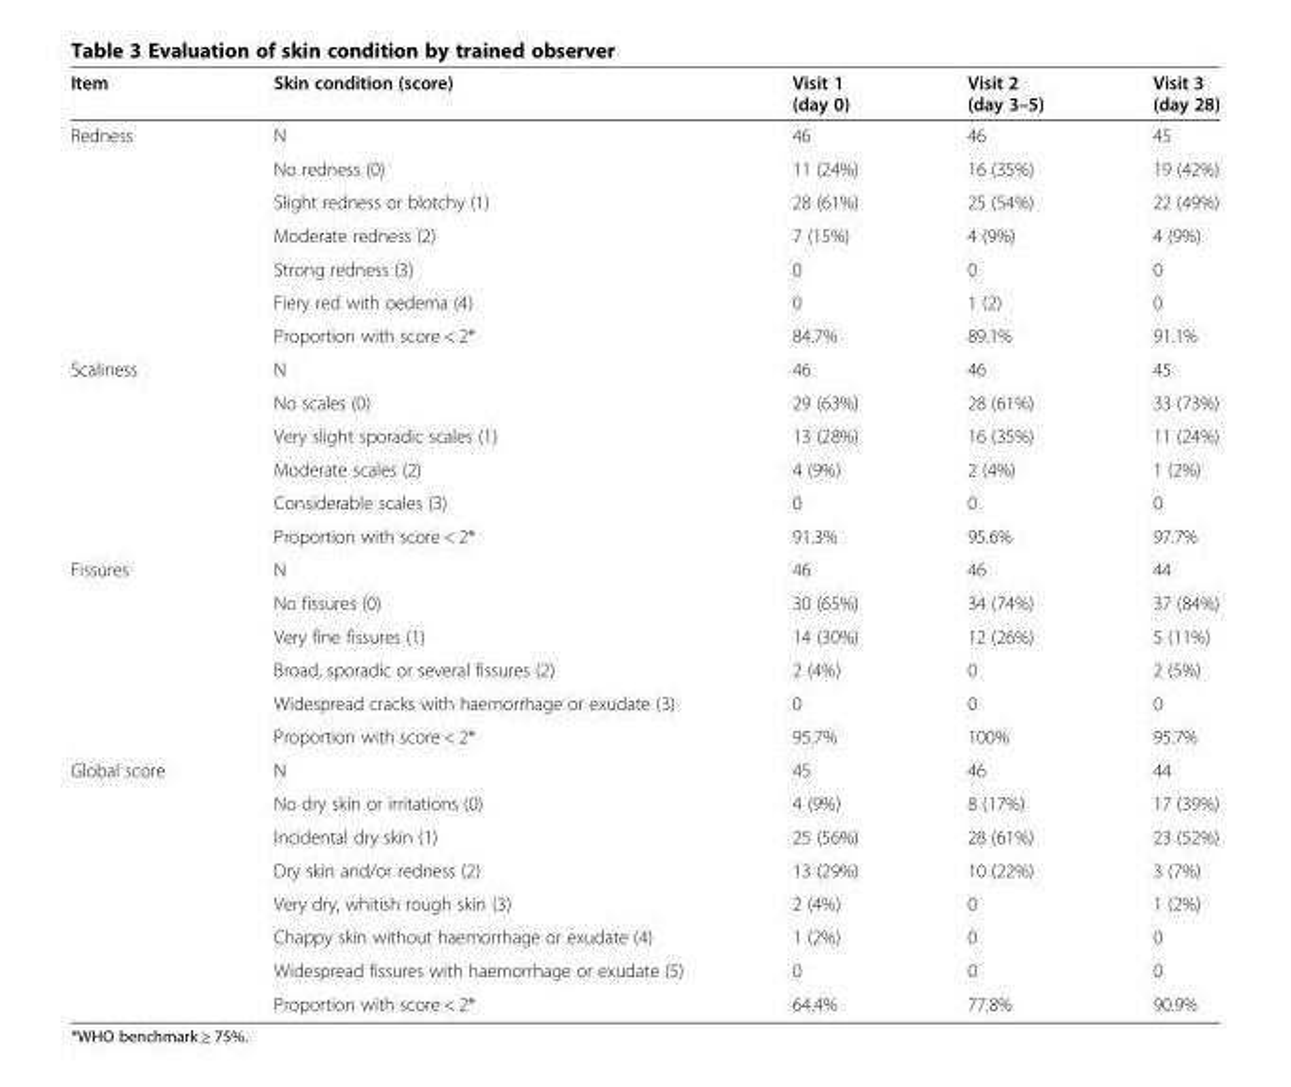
<table><thead><tr><td>Item</td><td>Skin condition (score)</td><td>Visit 1 (day 0)</td><td>Visit 2 (day 3–5)</td><td>Visit 3 (day 28)</td></tr></thead><tbody><tr><td rowspan="7">Redness</td><td>N</td><td>46</td><td>46</td><td>45</td></tr><tr><td>No redness (0)</td><td>11 (24%)</td><td>16 (35%)</td><td>19 (42%)</td></tr><tr><td>Slight redness or blotchy (1)</td><td>28 (61%)</td><td>25 (54%)</td><td>22 (49%)</td></tr><tr><td>Moderate redness (2)</td><td>7 (15%)</td><td>4 (9%)</td><td>4 (9%)</td></tr><tr><td>Strong redness (3)</td><td>0</td><td>0</td><td>0</td></tr><tr><td>Fiery red with oedema (4)</td><td>0</td><td>1 (2)</td><td>0</td></tr><tr><td>Proportion with score &lt; 2*</td><td>84.7%</td><td>89.1%</td><td>91.1%</td></tr><tr><td rowspan="6">Scaliness</td><td>N</td><td>46</td><td>46</td><td>45</td></tr><tr><td>No scales (0)</td><td>29 (63%)</td><td>28 (61%)</td><td>33 (73%)</td></tr><tr><td>Very slight sporadic scales (1)</td><td>13 (28%)</td><td>16 (35%)</td><td>11 (24%)</td></tr><tr><td>Moderate scales (2)</td><td>4 (9%)</td><td>2 (4%)</td><td>1 (2%)</td></tr><tr><td>Considerable scales (3)</td><td>0</td><td>0</td><td>0</td></tr><tr><td>Proportion with score &lt; 2*</td><td>91.3%</td><td>95.6%</td><td>97.7%</td></tr><tr><td rowspan="6">Fissures</td><td>N</td><td>46</td><td>46</td><td>44</td></tr><tr><td>No fissures (0)</td><td>30 (65%)</td><td>34 (74%)</td><td>37 (84%)</td></tr><tr><td>Very fine fissures (1)</td><td>14 (30%)</td><td>12 (26%)</td><td>5 (11%)</td></tr><tr><td>Broad, sporadic or several fissures (2)</td><td>2 (4%)</td><td>0</td><td>2 (5%)</td></tr><tr><td>Widespread cracks with haemorrhage or exudate (3)</td><td>0</td><td>0</td><td>0</td></tr><tr><td>Proportion with score &lt; 2*</td><td>95.7%</td><td>100%</td><td>95.7%</td></tr><tr><td rowspan="8">Global score</td><td>N</td><td>45</td><td>46</td><td>44</td></tr><tr><td>No dry skin or irritations (0)</td><td>4 (9%)</td><td>8 (17%)</td><td>17 (39%)</td></tr><tr><td>Incidental dry skin (1)</td><td>25 (56%)</td><td>28 (61%)</td><td>23 (52%)</td></tr><tr><td>Dry skin and/or redness (2)</td><td>13 (29%)</td><td>10 (22%)</td><td>3 (7%)</td></tr><tr><td>Very dry, whitish rough skin (3)</td><td>2 (4%)</td><td>0</td><td>1 (2%)</td></tr><tr><td>Chappy skin without haemorrhage or exudate (4)</td><td>1 (2%)</td><td>0</td><td>0</td></tr><tr><td>Widespread fissures with haemorrhage or exudate (5)</td><td>0</td><td>0</td><td>0</td></tr><tr><td>Proportion with score &lt; 2*</td><td>64.4%</td><td>77.8%</td><td>90.9%</td></tr></tbody></table>